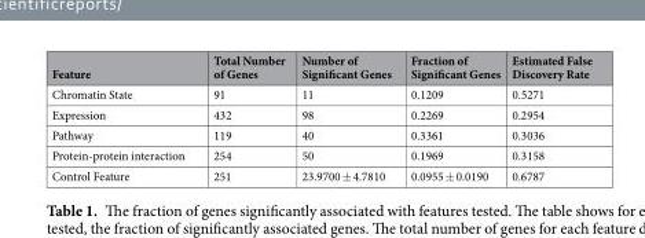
<table><thead><tr><td>Feature</td><td>Total Number of Genes</td><td>Number of Significant Genes</td><td>Fraction of Significant Genes</td><td>Estimated False Discovery Rate</td></tr></thead><tbody><tr><td>Chromatin State</td><td>91</td><td>11</td><td>0.1209</td><td>0.5271</td></tr><tr><td>Expression</td><td>432</td><td>98</td><td>0.2269</td><td>0.2954</td></tr><tr><td>Pathway</td><td>119</td><td>40</td><td>0.3361</td><td>0.3036</td></tr><tr><td>Protein-protein interaction</td><td>254</td><td>50</td><td>0.1969</td><td>0.3158</td></tr><tr><td>Control Feature</td><td>251</td><td>23.9700 ± 4.7810</td><td>0.0955 ± 0.0190</td><td>0.6787</td></tr></tbody></table>